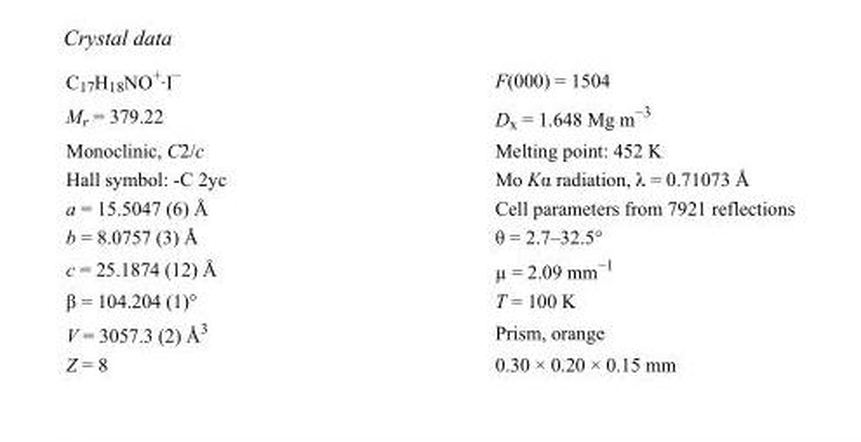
<table><tbody><tr><td>C<sub>17</sub>H<sub>18</sub>NO<sup>+</sup>·I<sup>−</sup></td><td>F(000) = 1504</td></tr><tr><td>M<sub>r</sub> = 379.22</td><td>D<sub>x</sub> = 1.648 Mg m<sup>−3</sup></td></tr><tr><td>Monoclinic, C2/c</td><td>Melting point: 452 K</td></tr><tr><td>Hall symbol: -C 2yc</td><td>Mo Kα radiation, λ = 0.71073 Å</td></tr><tr><td>a = 15.5047 (6) Å</td><td>Cell parameters from 7921 reflections</td></tr><tr><td>b = 8.0757 (3) Å</td><td>θ = 2.7–32.5°</td></tr><tr><td>c = 25.1874 (12) Å</td><td>µ = 2.09 mm<sup>−1</sup></td></tr><tr><td>β = 104.204 (1)°</td><td>T = 100 K</td></tr><tr><td>V = 3057.3 (2) Å<sup>3</sup></td><td>Prism, orange</td></tr><tr><td>Z = 8</td><td>0.30 × 0.20 × 0.15 mm</td></tr></tbody></table>